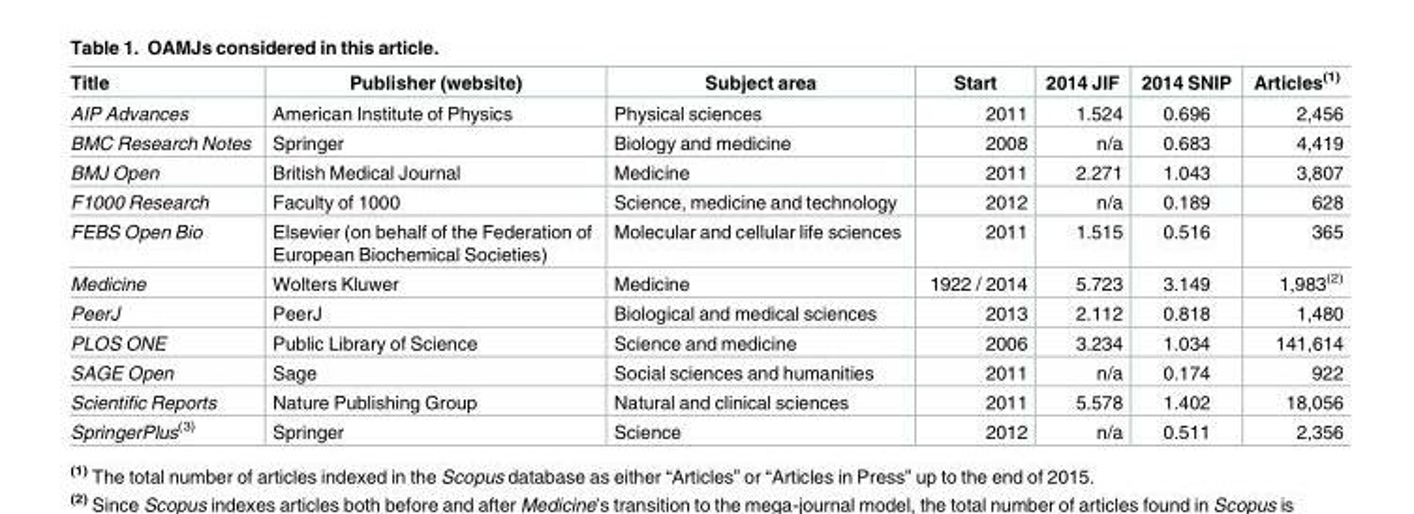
<table><thead><tr><td>Title</td><td>Publisher (website)</td><td>Subject area</td><td>Start</td><td>2014 JIF</td><td>2014 SNIP</td><td>Articles<sup>(1)</sup></td></tr></thead><tbody><tr><td>AIP Advances</td><td>American Institute of Physics</td><td>Physical sciences</td><td>2011</td><td>1.524</td><td>0.696</td><td>2,456</td></tr><tr><td>BMC Research Notes</td><td>Springer</td><td>Biology and medicine</td><td>2008</td><td>n/a</td><td>0.683</td><td>4,419</td></tr><tr><td>BMJ Open</td><td>British Medical Journal</td><td>Medicine</td><td>2011</td><td>2.271</td><td>1.043</td><td>3,807</td></tr><tr><td>F1000 Research</td><td>Faculty of 1000</td><td>Science, medicine and technology</td><td>2012</td><td>n/a</td><td>0.189</td><td>628</td></tr><tr><td>FEBS Open Bio</td><td>Elsevier (on behalf of the Federation of European Biochemical Societies)</td><td>Molecular and cellular life sciences</td><td>2011</td><td>1.515</td><td>0.516</td><td>365</td></tr><tr><td>Medicine</td><td>Wolters Kluwer</td><td>Medicine</td><td>1922 / 2014</td><td>5.723</td><td>3.149</td><td>1,983<sup>(2)</sup></td></tr><tr><td>PeerJ</td><td>PeerJ</td><td>Biological and medical sciences</td><td>2013</td><td>2.112</td><td>0.818</td><td>1,480</td></tr><tr><td>PLOS ONE</td><td>Public Library of Science</td><td>Science and medicine</td><td>2006</td><td>3.234</td><td>1.034</td><td>141,614</td></tr><tr><td>SAGE Open</td><td>Sage</td><td>Social sciences and humanities</td><td>2011</td><td>n/a</td><td>0.174</td><td>922</td></tr><tr><td>Scientific Reports</td><td>Nature Publishing Group</td><td>Natural and clinical sciences</td><td>2011</td><td>5.578</td><td>1.402</td><td>18,056</td></tr><tr><td>SpringerPlus<sup>(3)</sup></td><td>Springer</td><td>Science</td><td>2012</td><td>n/a</td><td>0.511</td><td>2,356</td></tr></tbody></table>